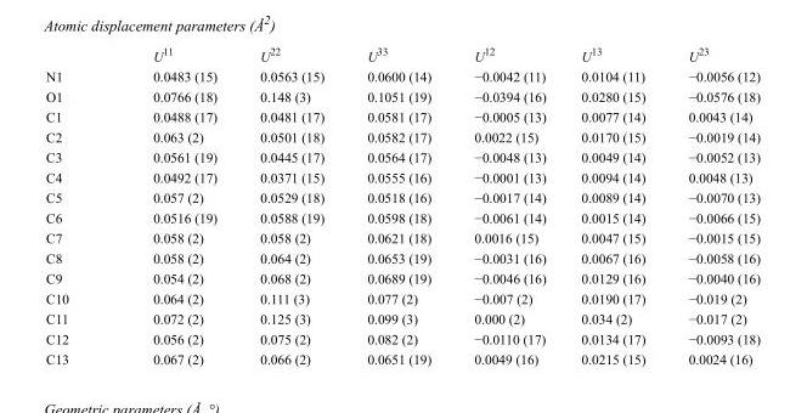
<table><thead><tr><td></td><td>U<sup>11</sup></td><td>U<sup>22</sup></td><td>U<sup>33</sup></td><td>U<sup>12</sup></td><td>U<sup>13</sup></td><td>U<sup>23</sup></td></tr></thead><tbody><tr><td>N1</td><td>0.0483 (15)</td><td>0.0563 (15)</td><td>0.0600 (14)</td><td>−0.0042 (11)</td><td>0.0104 (11)</td><td>−0.0056 (12)</td></tr><tr><td>O1</td><td>0.0766 (18)</td><td>0.148 (3)</td><td>0.1051 (19)</td><td>−0.0394 (16)</td><td>0.0280 (15)</td><td>−0.0576 (18)</td></tr><tr><td>C1</td><td>0.0488 (17)</td><td>0.0481 (17)</td><td>0.0581 (17)</td><td>−0.0005 (13)</td><td>0.0077 (14)</td><td>0.0043 (14)</td></tr><tr><td>C2</td><td>0.063 (2)</td><td>0.0501 (18)</td><td>0.0582 (17)</td><td>0.0022 (15)</td><td>0.0170 (15)</td><td>−0.0019 (14)</td></tr><tr><td>C3</td><td>0.0561 (19)</td><td>0.0445 (17)</td><td>0.0564 (17)</td><td>−0.0048 (13)</td><td>0.0049 (14)</td><td>−0.0052 (13)</td></tr><tr><td>C4</td><td>0.0492 (17)</td><td>0.0371 (15)</td><td>0.0555 (16)</td><td>−0.0001 (13)</td><td>0.0094 (14)</td><td>0.0048 (13)</td></tr><tr><td>C5</td><td>0.057 (2)</td><td>0.0529 (18)</td><td>0.0518 (16)</td><td>−0.0017 (14)</td><td>0.0089 (14)</td><td>−0.0070 (13)</td></tr><tr><td>C6</td><td>0.0516 (19)</td><td>0.0588 (19)</td><td>0.0598 (18)</td><td>−0.0061 (14)</td><td>0.0015 (14)</td><td>−0.0066 (15)</td></tr><tr><td>C7</td><td>0.058 (2)</td><td>0.058 (2)</td><td>0.0621 (18)</td><td>0.0016 (15)</td><td>0.0047 (15)</td><td>−0.0015 (15)</td></tr><tr><td>C8</td><td>0.058 (2)</td><td>0.064 (2)</td><td>0.0653 (19)</td><td>−0.0031 (16)</td><td>0.0067 (16)</td><td>−0.0058 (16)</td></tr><tr><td>C9</td><td>0.054 (2)</td><td>0.068 (2)</td><td>0.0689 (19)</td><td>−0.0046 (16)</td><td>0.0129 (16)</td><td>−0.0040 (16)</td></tr><tr><td>C10</td><td>0.064 (2)</td><td>0.111 (3)</td><td>0.077 (2)</td><td>−0.007 (2)</td><td>0.0190 (17)</td><td>−0.019 (2)</td></tr><tr><td>C11</td><td>0.072 (2)</td><td>0.125 (3)</td><td>0.099 (3)</td><td>0.000 (2)</td><td>0.034 (2)</td><td>−0.017 (2)</td></tr><tr><td>C12</td><td>0.056 (2)</td><td>0.075 (2)</td><td>0.082 (2)</td><td>−0.0110 (17)</td><td>0.0134 (17)</td><td>−0.0093 (18)</td></tr><tr><td>C13</td><td>0.067 (2)</td><td>0.066 (2)</td><td>0.0651 (19)</td><td>0.0049 (16)</td><td>0.0215 (15)</td><td>0.0024 (16)</td></tr></tbody></table>